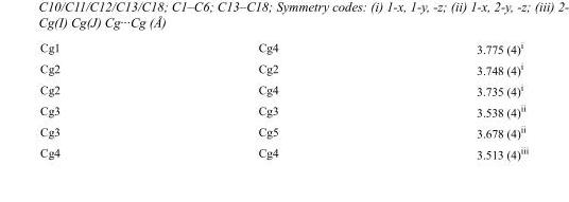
<table><tbody><tr><td>Cg1</td><td>Cg4</td><td>3.775 (4)<sup>i</sup></td></tr><tr><td>Cg2</td><td>Cg2</td><td>3.748 (4)<sup>i</sup></td></tr><tr><td>Cg2</td><td>Cg4</td><td>3.735 (4)<sup>i</sup></td></tr><tr><td>Cg3</td><td>Cg3</td><td>3.538 (4)<sup>ii</sup></td></tr><tr><td>Cg3</td><td>Cg5</td><td>3.678 (4)<sup>ii</sup></td></tr><tr><td>Cg4</td><td>Cg4</td><td>3.513 (4)<sup>iii</sup></td></tr></tbody></table>